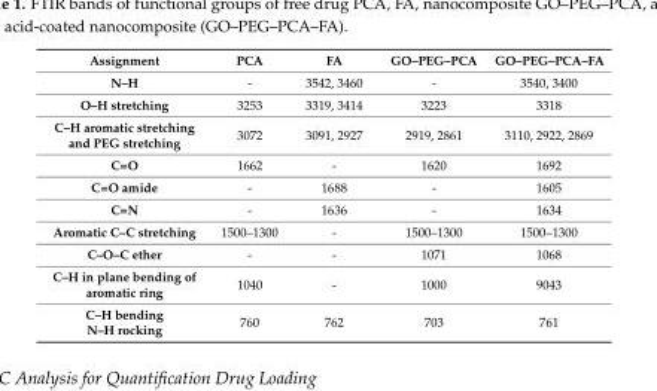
<table><thead><tr><td>Assignment</td><td>PCA</td><td>FA</td><td>GO–PEG–PCA</td><td>GO–PEG–PCA–FA</td></tr></thead><tbody><tr><td>N–H</td><td>-</td><td>3542, 3460</td><td>-</td><td>3540, 3400</td></tr><tr><td>O–H stretching</td><td>3253</td><td>3319, 3414</td><td>3223</td><td>3318</td></tr><tr><td>C–H aromatic stretching and PEG stretching</td><td>3072</td><td>3091, 2927</td><td>2919, 2861</td><td>3110, 2922, 2869</td></tr><tr><td>C=O</td><td>1662</td><td>-</td><td>1620</td><td>1692</td></tr><tr><td>C=O amide</td><td>-</td><td>1688</td><td>-</td><td>1605</td></tr><tr><td>C=N</td><td>-</td><td>1636</td><td>-</td><td>1634</td></tr><tr><td>Aromatic C–C stretching</td><td>1500–1300</td><td>-</td><td>1500–1300</td><td>1500–1300</td></tr><tr><td>C–O–C ether</td><td>-</td><td>-</td><td>1071</td><td>1068</td></tr><tr><td>C–H in plane bending of aromatic ring</td><td>1040</td><td>-</td><td>1000</td><td>9043</td></tr><tr><td>C–H bending N–H rocking</td><td>760</td><td>762</td><td>703</td><td>761</td></tr></tbody></table>